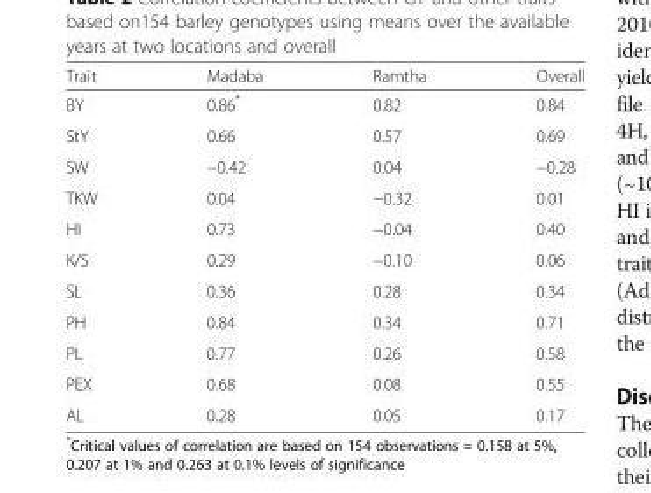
<table><thead><tr><td>Trait</td><td>Madaba</td><td>Ramtha</td><td>Overall</td></tr></thead><tbody><tr><td>BY</td><td>0.86*</td><td>0.82</td><td>0.84</td></tr><tr><td>StY</td><td>0.66</td><td>0.57</td><td>0.69</td></tr><tr><td>SW</td><td>−0.42</td><td>0.04</td><td>−0.28</td></tr><tr><td>TKW</td><td>0.04</td><td>−0.32</td><td>0.01</td></tr><tr><td>HI</td><td>0.73</td><td>−0.04</td><td>0.40</td></tr><tr><td>K/S</td><td>0.29</td><td>−0.10</td><td>0.06</td></tr><tr><td>SL</td><td>0.36</td><td>0.28</td><td>0.34</td></tr><tr><td>PH</td><td>0.84</td><td>0.34</td><td>0.71</td></tr><tr><td>PL</td><td>0.77</td><td>0.26</td><td>0.58</td></tr><tr><td>PEX</td><td>0.68</td><td>0.08</td><td>0.55</td></tr><tr><td>AL</td><td>0.28</td><td>0.05</td><td>0.17</td></tr></tbody></table>